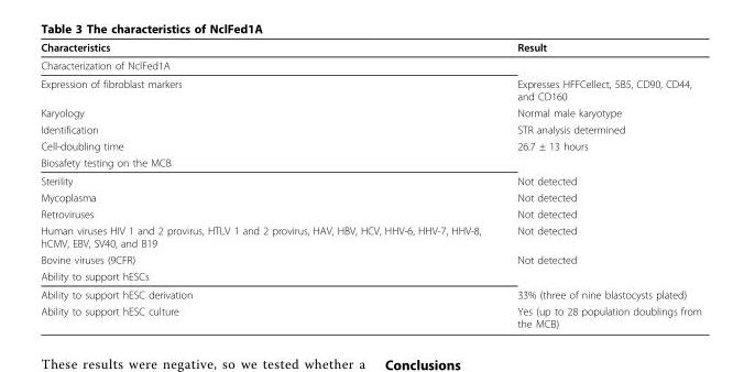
<table><thead><tr><td>Characteristics</td><td>Result</td></tr></thead><tbody><tr><td colspan="2">Characterization of NclFed1A</td></tr><tr><td>Expression of fibroblast markers</td><td>Expresses HFFCellect, 5B5, CD90, CD44, and CD160</td></tr><tr><td>Karyology</td><td>Normal male karyotype</td></tr><tr><td>Identification</td><td>STR analysis determined</td></tr><tr><td>Cell-doubling time</td><td>26.7 ± 13 hours</td></tr><tr><td colspan="2">Biosafety testing on the MCB</td></tr><tr><td>Sterility</td><td>Not detected</td></tr><tr><td>Mycoplasma</td><td>Not detected</td></tr><tr><td>Retroviruses</td><td>Not detected</td></tr><tr><td>Human viruses HIV 1 and 2 provirus, HTLV 1 and 2 provirus, HAV, HBV, HCV, HHV-6, HHV-7, HHV-8, hCMV, EBV, SV40, and B19</td><td>Not detected</td></tr><tr><td>Bovine viruses (9CFR)</td><td>Not detected</td></tr><tr><td colspan="2">Ability to support hESCs</td></tr><tr><td>Ability to support hESC derivation</td><td>33% (three of nine blastocysts plated)</td></tr><tr><td>Ability to support hESC culture</td><td>Yes (up to 28 population doublings from the MCB)</td></tr></tbody></table>